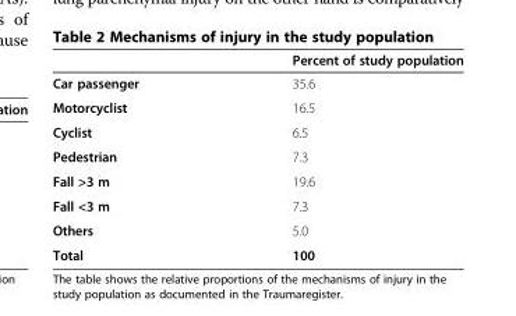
<table><thead><tr><td></td><td>Percent of study population</td></tr></thead><tbody><tr><td>Car passenger</td><td>35.6</td></tr><tr><td>Motorcyclist</td><td>16.5</td></tr><tr><td>Cyclist</td><td>6.5</td></tr><tr><td>Pedestrian</td><td>7.3</td></tr><tr><td>Fall &gt;3 m</td><td>19.6</td></tr><tr><td>Fall &lt;3 m</td><td>7.3</td></tr><tr><td>Others</td><td>5.0</td></tr><tr><td>Total</td><td>100</td></tr></tbody></table>